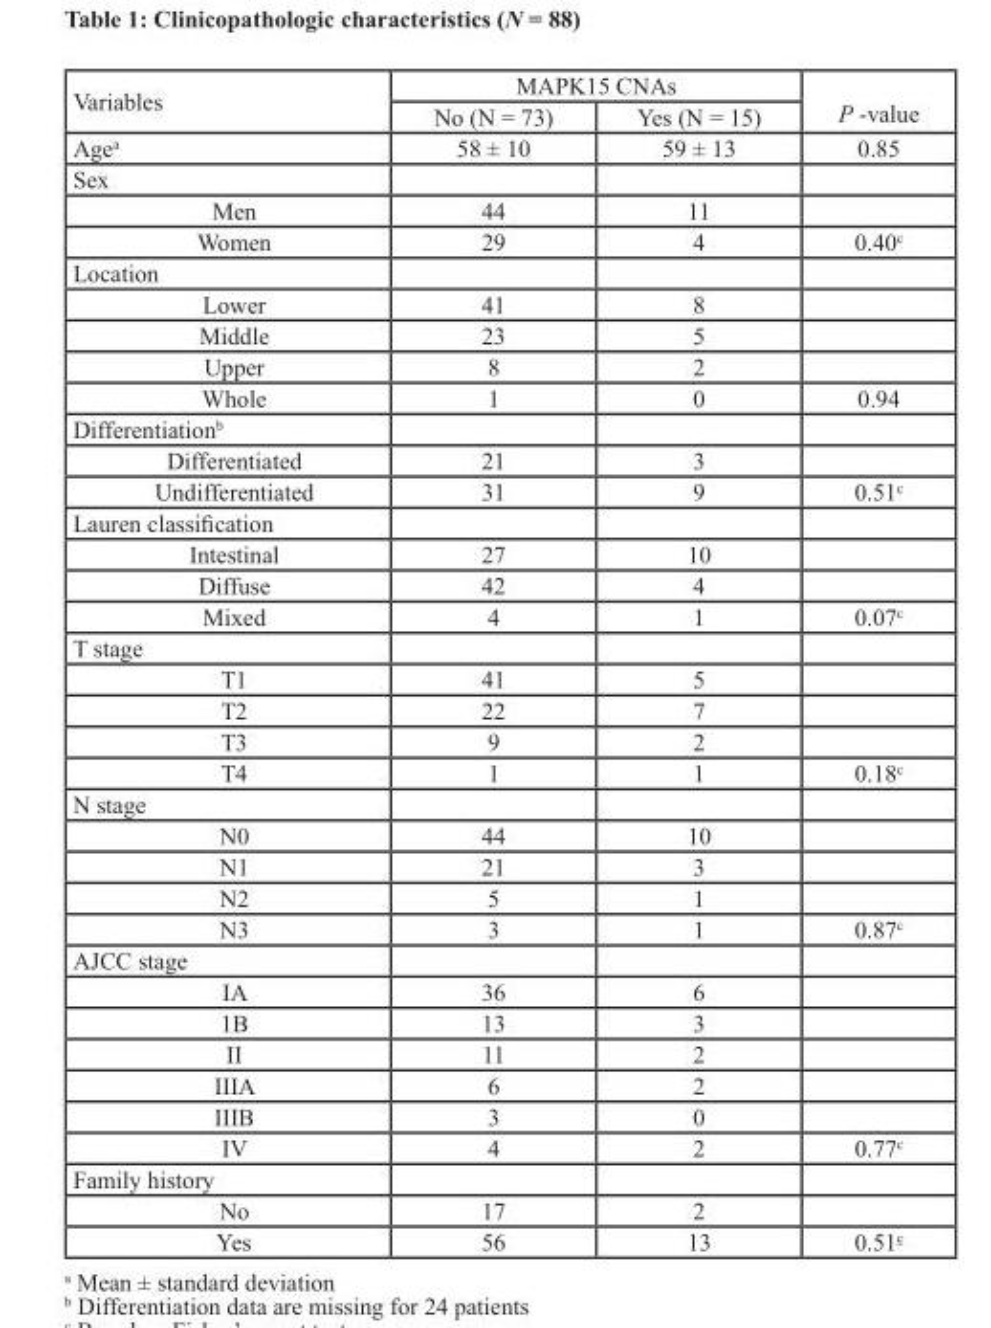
<table><thead><tr><td rowspan="2">Variables</td><td colspan="2">MAPK15 CNAs</td><td rowspan="2">P -value</td></tr><tr><td>No (N = 73)</td><td>Yes (N = 15)</td></tr></thead><tbody><tr><td>Age<sup>a</sup></td><td>58 ± 10</td><td>59 ± 13</td><td>0.85</td></tr><tr><td colspan="4">Sex</td></tr><tr><td>Men</td><td>44</td><td>11</td><td></td></tr><tr><td>Women</td><td>29</td><td>4</td><td>0.40<sup>c</sup></td></tr><tr><td colspan="4">Location</td></tr><tr><td>Lower</td><td>41</td><td>8</td><td></td></tr><tr><td>Middle</td><td>23</td><td>5</td><td></td></tr><tr><td>Upper</td><td>8</td><td>2</td><td></td></tr><tr><td>Whole</td><td>1</td><td>0</td><td>0.94</td></tr><tr><td colspan="4">Differentiation<sup>b</sup></td></tr><tr><td>Differentiated</td><td>21</td><td>3</td><td></td></tr><tr><td>Undifferentiated</td><td>31</td><td>9</td><td>0.51<sup>c</sup></td></tr><tr><td colspan="4">Lauren classification</td></tr><tr><td>Intestinal</td><td>27</td><td>10</td><td></td></tr><tr><td>Diffuse</td><td>42</td><td>4</td><td></td></tr><tr><td>Mixed</td><td>4</td><td>1</td><td>0.07<sup>c</sup></td></tr><tr><td colspan="4">T stage</td></tr><tr><td>T1</td><td>41</td><td>5</td><td></td></tr><tr><td>T2</td><td>22</td><td>7</td><td></td></tr><tr><td>T3</td><td>9</td><td>2</td><td></td></tr><tr><td>T4</td><td>1</td><td>1</td><td>0.18<sup>c</sup></td></tr><tr><td colspan="4">N stage</td></tr><tr><td>N0</td><td>44</td><td>10</td><td></td></tr><tr><td>N1</td><td>21</td><td>3</td><td></td></tr><tr><td>N2</td><td>5</td><td>1</td><td></td></tr><tr><td>N3</td><td>3</td><td>1</td><td>0.87<sup>c</sup></td></tr><tr><td colspan="4">AJCC stage</td></tr><tr><td>IA</td><td>36</td><td>6</td><td></td></tr><tr><td>1B</td><td>13</td><td>3</td><td></td></tr><tr><td>II</td><td>11</td><td>2</td><td></td></tr><tr><td>IIIA</td><td>6</td><td>2</td><td></td></tr><tr><td>IIIB</td><td>3</td><td>0</td><td></td></tr><tr><td>IV</td><td>4</td><td>2</td><td>0.77<sup>c</sup></td></tr><tr><td colspan="4">Family history</td></tr><tr><td>No</td><td>17</td><td>2</td><td></td></tr><tr><td>Yes</td><td>56</td><td>13</td><td>0.51<sup>c</sup></td></tr></tbody></table>